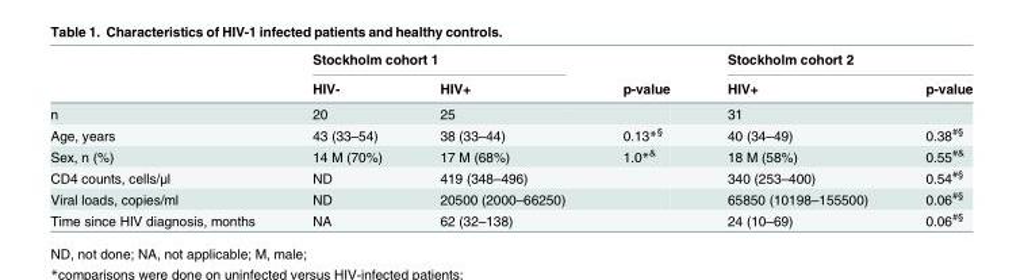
<table><thead><tr><td rowspan="2"></td><td colspan="2">Stockholm cohort 1</td><td rowspan="2">p-value</td><td colspan="2">Stockholm cohort 2</td></tr><tr><td>HIV-</td><td>HIV+</td><td>HIV+</td><td>p-value</td></tr></thead><tbody><tr><td>n</td><td>20</td><td>25</td><td></td><td>31</td><td></td></tr><tr><td>Age, years</td><td>43 (33–54)</td><td>38 (33–44)</td><td>0.13*<sup>§</sup></td><td>40 (34–49)</td><td>0.38<sup>#§</sup></td></tr><tr><td>Sex, n (%)</td><td>14 M (70%)</td><td>17 M (68%)</td><td>1.0*<sup>&amp;</sup></td><td>18 M (58%)</td><td>0.55<sup>#&amp;</sup></td></tr><tr><td>CD4 counts, cells/μl</td><td>ND</td><td>419 (348–496)</td><td></td><td>340 (253–400)</td><td>0.54<sup>#§</sup></td></tr><tr><td>Viral loads, copies/ml</td><td>ND</td><td>20500 (2000–66250)</td><td></td><td>65850 (10198–155500)</td><td>0.06<sup>#§</sup></td></tr><tr><td>Time since HIV diagnosis, months</td><td>NA</td><td>62 (32–138)</td><td></td><td>24 (10–69)</td><td>0.06<sup>#§</sup></td></tr></tbody></table>